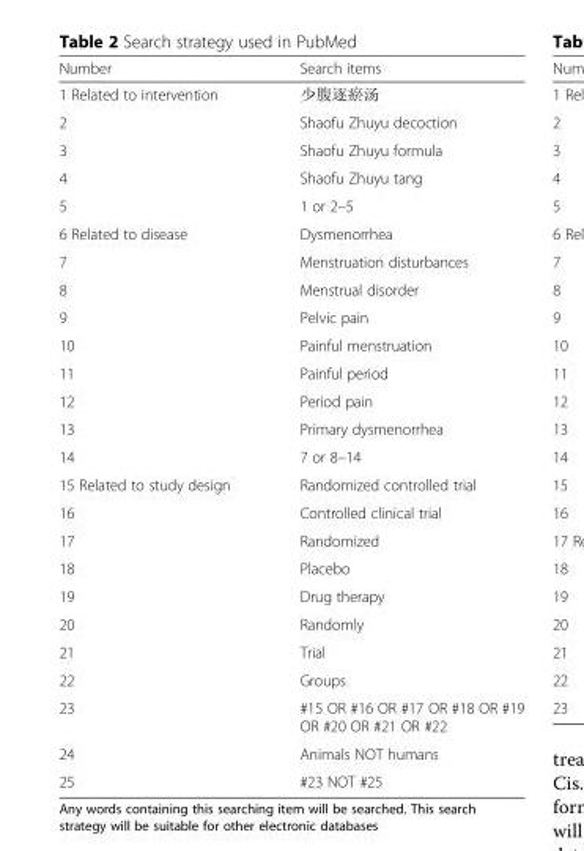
<table><thead><tr><td>Number</td><td>Search items</td></tr></thead><tbody><tr><td>1 Related to intervention</td><td>少腹逐瘀汤</td></tr><tr><td>2</td><td>Shaofu Zhuyu decoction</td></tr><tr><td>3</td><td>Shaofu Zhuyu formula</td></tr><tr><td>4</td><td>Shaofu Zhuyu tang</td></tr><tr><td>5</td><td>1 or 2–5</td></tr><tr><td>6 Related to disease</td><td>Dysmenorrhea</td></tr><tr><td>7</td><td>Menstruation disturbances</td></tr><tr><td>8</td><td>Menstrual disorder</td></tr><tr><td>9</td><td>Pelvic pain</td></tr><tr><td>10</td><td>Painful menstruation</td></tr><tr><td>11</td><td>Painful period</td></tr><tr><td>12</td><td>Period pain</td></tr><tr><td>13</td><td>Primary dysmenorrhea</td></tr><tr><td>14</td><td>7 or 8–14</td></tr><tr><td>15 Related to study design</td><td>Randomized controlled trial</td></tr><tr><td>16</td><td>Controlled clinical trial</td></tr><tr><td>17</td><td>Randomized</td></tr><tr><td>18</td><td>Placebo</td></tr><tr><td>19</td><td>Drug therapy</td></tr><tr><td>20</td><td>Randomly</td></tr><tr><td>21</td><td>Trial</td></tr><tr><td>22</td><td>Groups</td></tr><tr><td>23</td><td>#15 OR #16 OR #17 OR #18 OR #19 OR #20 OR #21 OR #22</td></tr><tr><td>24</td><td>Animals NOT humans</td></tr><tr><td>25</td><td>#23 NOT #25</td></tr></tbody></table>